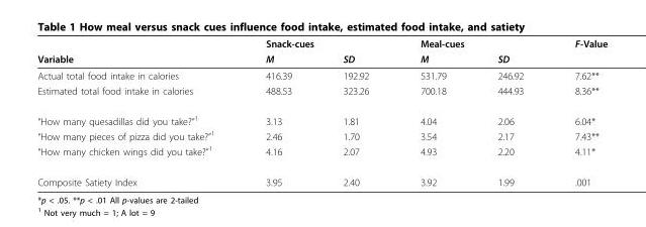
<table><thead><tr><td rowspan="2">Variable</td><td colspan="2">Snack-cues</td><td colspan="2">Meal-cues</td><td rowspan="2">F-Value</td></tr><tr><td>M</td><td>SD</td><td>M</td><td>SD</td></tr></thead><tbody><tr><td>Actual total food intake in calories</td><td>416.39</td><td>192.92</td><td>531.79</td><td>246.92</td><td>7.62**</td></tr><tr><td>Estimated total food intake in calories</td><td>488.53</td><td>323.26</td><td>700.18</td><td>444.93</td><td>8.36**</td></tr><tr><td>“How many quesadillas did you take?”1</td><td>3.13</td><td>1.81</td><td>4.04</td><td>2.06</td><td>6.04*</td></tr><tr><td>“How many pieces of pizza did you take?”1</td><td>2.46</td><td>1.70</td><td>3.54</td><td>2.17</td><td>7.43**</td></tr><tr><td>“How many chicken wings did you take?”1</td><td>4.16</td><td>2.07</td><td>4.93</td><td>2.20</td><td>4.11*</td></tr><tr><td>Composite Satiety Index</td><td>3.95</td><td>2.40</td><td>3.92</td><td>1.99</td><td>.001</td></tr></tbody></table>